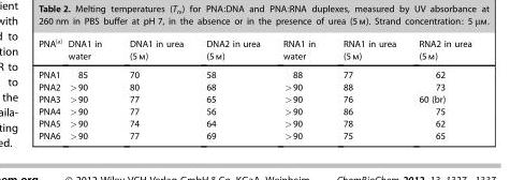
<table><thead><tr><td>PNA<sup>[a]</sup></td><td>DNA1 in water</td><td>DNA1 in urea (5m)</td><td>DNA2 in urea (5m)</td><td>RNA1 in water</td><td>RNA1 in urea (5m)</td><td>RNA2 in urea (5m)</td></tr></thead><tbody><tr><td>PNA1</td><td>85</td><td>70</td><td>58</td><td>88</td><td>77</td><td>62</td></tr><tr><td>PNA2</td><td>&gt;90</td><td>80</td><td>68</td><td>&gt;90</td><td>88</td><td>73</td></tr><tr><td>PNA3</td><td>&gt;90</td><td>77</td><td>65</td><td>&gt;90</td><td>76</td><td>60 (br)</td></tr><tr><td>PNA4</td><td>&gt;90</td><td>77</td><td>56</td><td>&gt;90</td><td>86</td><td>75</td></tr><tr><td>PNA5</td><td>&gt;90</td><td>74</td><td>64</td><td>&gt;90</td><td>78</td><td>62</td></tr><tr><td>PNA6</td><td>&gt;90</td><td>77</td><td>69</td><td>&gt;90</td><td>75</td><td>65</td></tr></tbody></table>